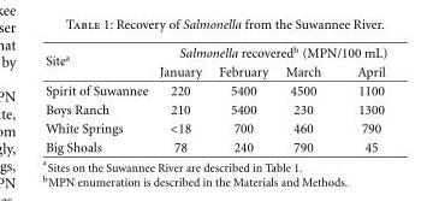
<table><thead><tr><td rowspan="2">Site<sup>a</sup></td><td colspan="4">Salmonella recovered<sup>b</sup> (MPN/100 mL)</td></tr><tr><td>January</td><td>February</td><td>March</td><td>April</td></tr></thead><tbody><tr><td>Spirit of Suwannee</td><td>220</td><td>5400</td><td>4500</td><td>1100</td></tr><tr><td>Boys Ranch</td><td>210</td><td>5400</td><td>230</td><td>1300</td></tr><tr><td>White Springs</td><td>&lt;18</td><td>700</td><td>460</td><td>790</td></tr><tr><td>Big Shoals</td><td>78</td><td>240</td><td>790</td><td>45</td></tr></tbody></table>